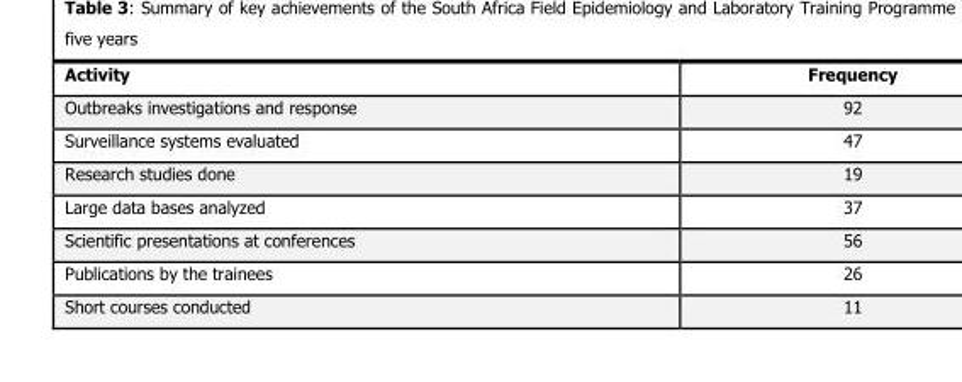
<table><thead><tr><td>Activity</td><td>Frequency</td></tr></thead><tbody><tr><td>Outbreaks investigations and response</td><td>92</td></tr><tr><td>Surveillance systems evaluated</td><td>47</td></tr><tr><td>Research studies done</td><td>19</td></tr><tr><td>Large data bases analyzed</td><td>37</td></tr><tr><td>Scientific presentations at conferences</td><td>56</td></tr><tr><td>Publications by the trainees</td><td>26</td></tr><tr><td>Short courses conducted</td><td>11</td></tr></tbody></table>